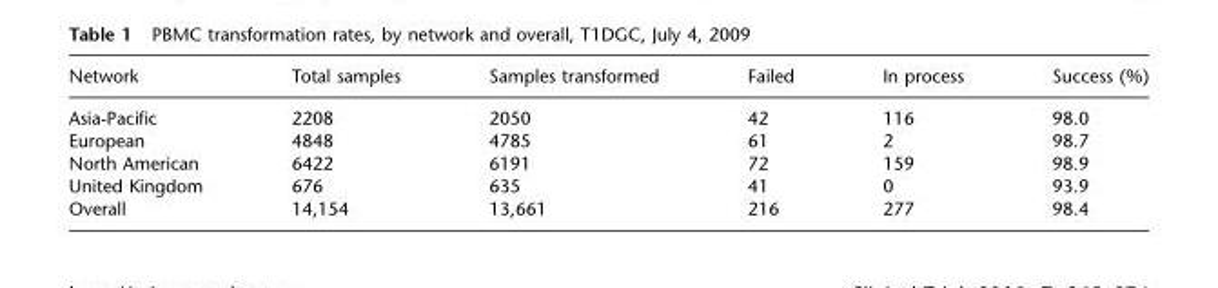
<table><thead><tr><td>Network</td><td>Total samples</td><td>Samples transformed</td><td>Failed</td><td>In process</td><td>Success (%)</td></tr></thead><tbody><tr><td>Asia-Pacific</td><td>2208</td><td>2050</td><td>42</td><td>116</td><td>98.0</td></tr><tr><td>European</td><td>4848</td><td>4785</td><td>61</td><td>2</td><td>98.7</td></tr><tr><td>North American</td><td>6422</td><td>6191</td><td>72</td><td>159</td><td>98.9</td></tr><tr><td>United Kingdom</td><td>676</td><td>635</td><td>41</td><td>0</td><td>93.9</td></tr><tr><td>Overall</td><td>14,154</td><td>13,661</td><td>216</td><td>277</td><td>98.4</td></tr></tbody></table>